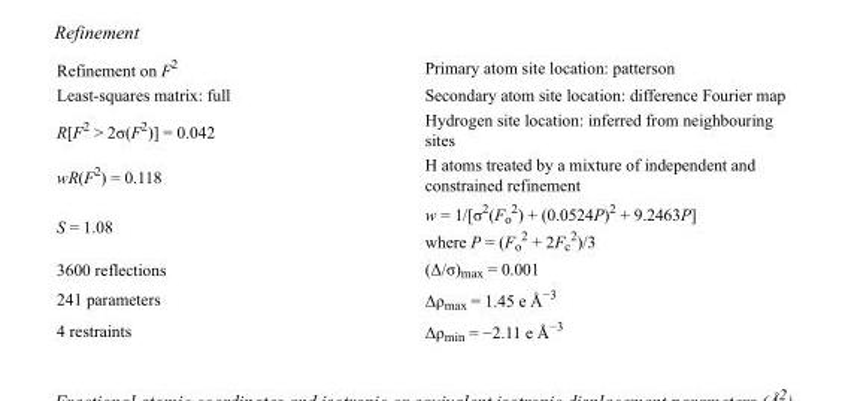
<table><tbody><tr><td>Refinement on F<sup>2</sup></td><td>Primary atom site location: patterson</td></tr><tr><td>Least-squares matrix: full</td><td>Secondary atom site location: difference Fourier map</td></tr><tr><td>R[F<sup>2</sup> &gt; 2σ(F<sup>2</sup>)] = 0.042</td><td>Hydrogen site location: inferred from neighbouring sites</td></tr><tr><td>wR(F<sup>2</sup>) = 0.118</td><td>H atoms treated by a mixture of independent and constrained refinement</td></tr><tr><td>S = 1.08</td><td>w = 1/[σ<sup>2</sup>(F<sub>o</sub> <sup>2</sup>) + (0.0524P)<sup>2</sup> + 9.2463P] where P = (F<sub>o</sub> <sup>2</sup> + 2F<sub>c</sub> <sup>2</sup>)/3</td></tr><tr><td>3600 reflections</td><td>(Δ/σ)<sub>max</sub> = 0.001</td></tr><tr><td>241 parameters</td><td>Δρ<sub>max</sub> = 1.45 e Å<sup>−3</sup></td></tr><tr><td>4 restraints</td><td>Δρ<sub>min</sub> = −2.11 e Å<sup>−3</sup></td></tr></tbody></table>